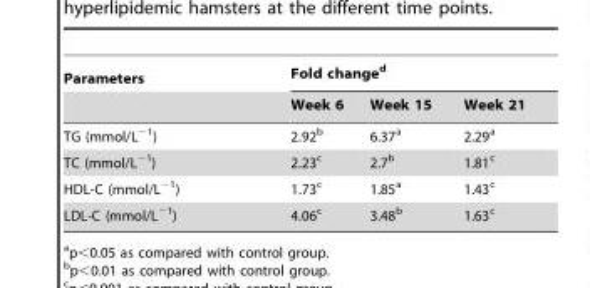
<table><thead><tr><td rowspan="2">Parameters</td><td colspan="3">Fold change<sup>d</sup></td></tr><tr><td>Week 6</td><td>Week 15</td><td>Week 21</td></tr></thead><tbody><tr><td>TG (mmol/L<sup>−1</sup>)</td><td>2.92<sup>b</sup></td><td>6.37<sup>a</sup></td><td>2.29<sup>a</sup></td></tr><tr><td>TC (mmol/L<sup>−1</sup>)</td><td>2.23<sup>c</sup></td><td>2.7<sup>b</sup></td><td>1.81<sup>c</sup></td></tr><tr><td>HDL-C (mmol/L<sup>−1</sup>)</td><td>1.73<sup>c</sup></td><td>1.85<sup>a</sup></td><td>1.43<sup>c</sup></td></tr><tr><td>LDL-C (mmol/L<sup>−1</sup>)</td><td>4.06<sup>c</sup></td><td>3.48<sup>b</sup></td><td>1.63<sup>c</sup></td></tr></tbody></table>